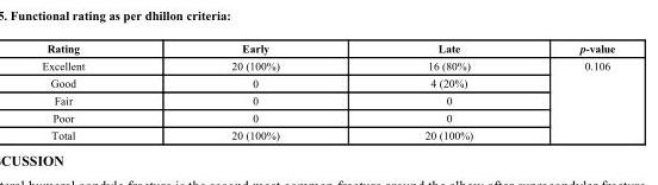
<table><thead><tr><td>Rating</td><td>Early</td><td>Late</td><td>p-value</td></tr></thead><tbody><tr><td>Excellent</td><td>20 (100%)</td><td>16 (80%)</td><td rowspan="5">0.106</td></tr><tr><td>Good</td><td>0</td><td>4 (20%)</td></tr><tr><td>Fair</td><td>0</td><td>0</td></tr><tr><td>Poor</td><td>0</td><td>0</td></tr><tr><td>Total</td><td>20 (100%)</td><td>20 (100%)</td></tr></tbody></table>